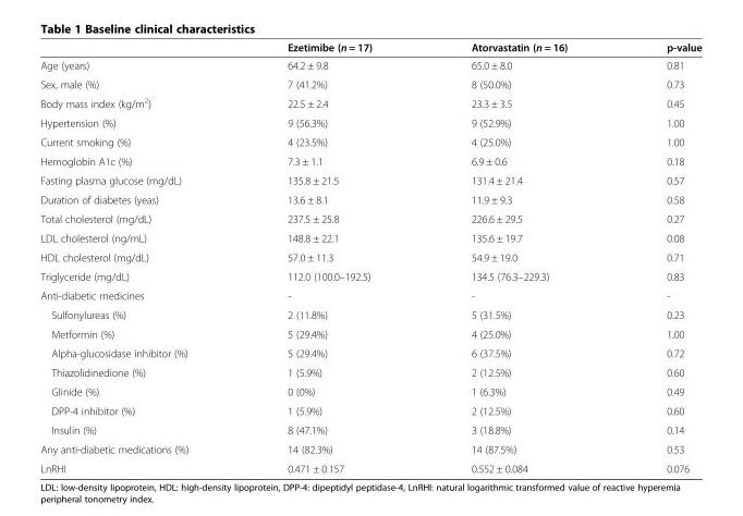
<table><thead><tr><td></td><td>Ezetimibe (n = 17)</td><td>Atorvastatin (n = 16)</td><td>p-value</td></tr></thead><tbody><tr><td>Age (years)</td><td>64.2 ± 9.8</td><td>65.0 ± 8.0</td><td>0.81</td></tr><tr><td>Sex, male (%)</td><td>7 (41.2%)</td><td>8 (50.0%)</td><td>0.73</td></tr><tr><td>Body mass index (kg/m<sup>2</sup>)</td><td>22.5 ± 2.4</td><td>23.3 ± 3.5</td><td>0.45</td></tr><tr><td>Hypertension (%)</td><td>9 (56.3%)</td><td>9 (52.9%)</td><td>1.00</td></tr><tr><td>Current smoking (%)</td><td>4 (23.5%)</td><td>4 (25.0%)</td><td>1.00</td></tr><tr><td>Hemoglobin A1c (%)</td><td>7.3 ± 1.1</td><td>6.9 ± 0.6</td><td>0.18</td></tr><tr><td>Fasting plasma glucose (mg/dL)</td><td>135.8 ± 21.5</td><td>131.4 ± 21.4</td><td>0.57</td></tr><tr><td>Duration of diabetes (yeas)</td><td>13.6 ± 8.1</td><td>11.9 ± 9.3</td><td>0.58</td></tr><tr><td>Total cholesterol (mg/dL)</td><td>237.5 ± 25.8</td><td>226.6 ± 29.5</td><td>0.27</td></tr><tr><td>LDL cholesterol (ng/mL)</td><td>148.8 ± 22.1</td><td>135.6 ± 19.7</td><td>0.08</td></tr><tr><td>HDL cholesterol (mg/dL)</td><td>57.0 ± 11.3</td><td>54.9 ± 19.0</td><td>0.71</td></tr><tr><td>Triglyceride (mg/dL)</td><td>112.0 (100.0–192.5)</td><td>134.5 (76.3–229.3)</td><td>0.83</td></tr><tr><td>Anti-diabetic medicines</td><td>-</td><td>-</td><td>-</td></tr><tr><td>Sulfonylureas (%)</td><td>2 (11.8%)</td><td>5 (31.5%)</td><td>0.23</td></tr><tr><td>Metformin (%)</td><td>5 (29.4%)</td><td>4 (25.0%)</td><td>1.00</td></tr><tr><td>Alpha-glucosidase inhibitor (%)</td><td>5 (29.4%)</td><td>6 (37.5%)</td><td>0.72</td></tr><tr><td>Thiazolidinedione (%)</td><td>1 (5.9%)</td><td>2 (12.5%)</td><td>0.60</td></tr><tr><td>Glinide (%)</td><td>0 (0%)</td><td>1 (6.3%)</td><td>0.49</td></tr><tr><td>DPP-4 inhibitor (%)</td><td>1 (5.9%)</td><td>2 (12.5%)</td><td>0.60</td></tr><tr><td>Insulin (%)</td><td>8 (47.1%)</td><td>3 (18.8%)</td><td>0.14</td></tr><tr><td>Any anti-diabetic medications (%)</td><td>14 (82.3%)</td><td>14 (87.5%)</td><td>0.53</td></tr><tr><td>LnRHI</td><td>0.471 ± 0.157</td><td>0.552 ± 0.084</td><td>0.076</td></tr></tbody></table>